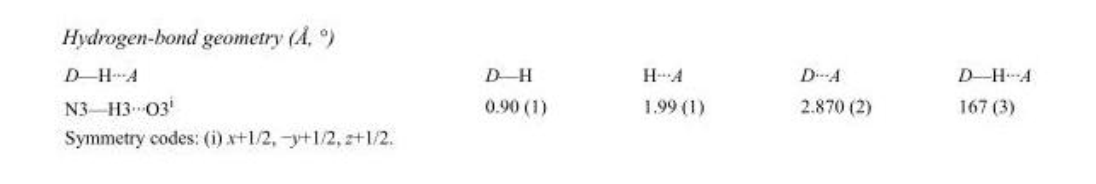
<table><tbody><tr><td>D—H···A</td><td>D—H</td><td>H···A</td><td>D···A</td><td>D—H···A</td></tr><tr><td>N3—H3···O3<sup>i</sup></td><td>0.90 (1)</td><td>1.99 (1)</td><td>2.870 (2)</td><td>167 (3)</td></tr></tbody></table>